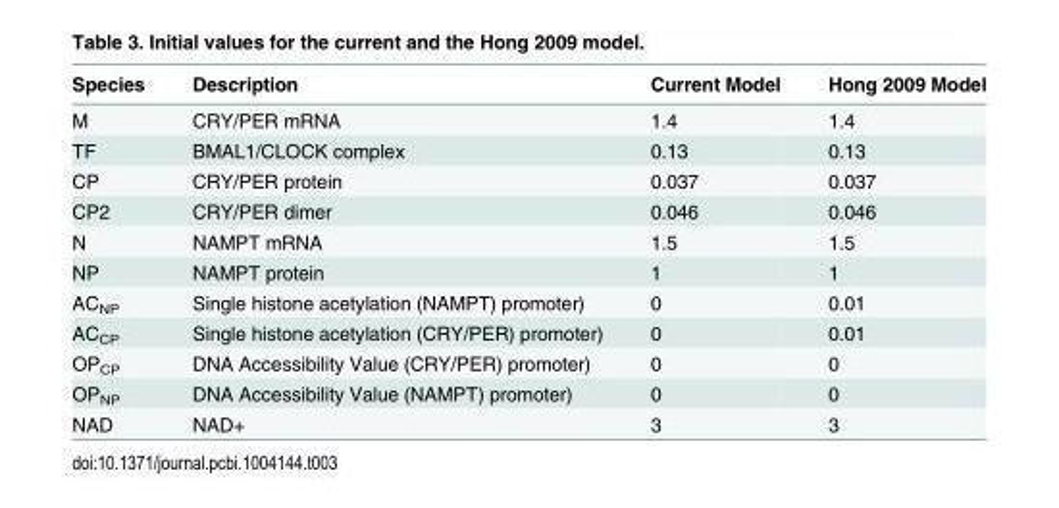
<table><thead><tr><td>Species</td><td>Description</td><td>Current Model</td><td>Hong 2009 Model</td></tr></thead><tbody><tr><td>M</td><td>CRY/PER mRNA</td><td>1.4</td><td>1.4</td></tr><tr><td>TF</td><td>BMAL1/CLOCK complex</td><td>0.13</td><td>0.13</td></tr><tr><td>CP</td><td>CRY/PER protein</td><td>0.037</td><td>0.037</td></tr><tr><td>CP2</td><td>CRY/PER dimer</td><td>0.046</td><td>0.046</td></tr><tr><td>N</td><td>NAMPT mRNA</td><td>1.5</td><td>1.5</td></tr><tr><td>NP</td><td>NAMPT protein</td><td>1</td><td>1</td></tr><tr><td>AC<sub>NP</sub></td><td>Single histone acetylation (NAMPT) promoter)</td><td>0</td><td>0.01</td></tr><tr><td>AC<sub>CP</sub></td><td>Single histone acetylation (CRY/PER) promoter)</td><td>0</td><td>0.01</td></tr><tr><td>OP<sub>CP</sub></td><td>DNA Accessibility Value (CRY/PER) promoter)</td><td>0</td><td>0</td></tr><tr><td>OP<sub>NP</sub></td><td>DNA Accessibility Value (NAMPT) promoter)</td><td>0</td><td>0</td></tr><tr><td>NAD</td><td>NAD+</td><td>3</td><td>3</td></tr></tbody></table>